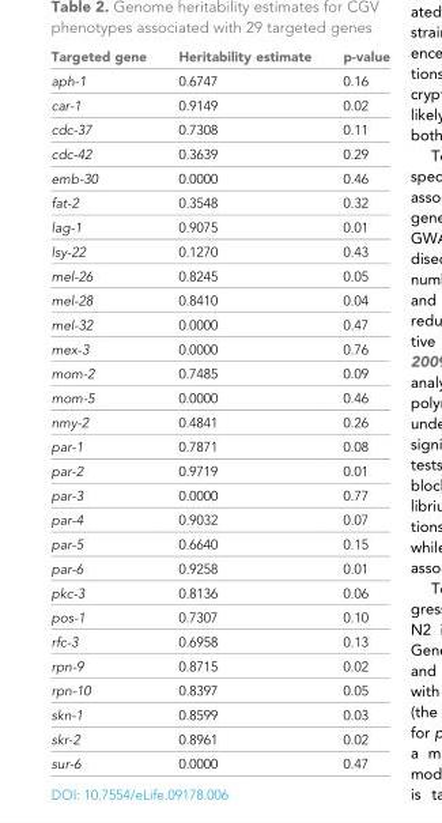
<table><thead><tr><td>Targeted gene</td><td>Heritability estimate</td><td>p-value</td></tr></thead><tbody><tr><td>aph-1</td><td>0.6747</td><td>0.16</td></tr><tr><td>car-1</td><td>0.9149</td><td>0.02</td></tr><tr><td>cdc-37</td><td>0.7308</td><td>0.11</td></tr><tr><td>cdc-42</td><td>0.3639</td><td>0.29</td></tr><tr><td>emb-30</td><td>0.0000</td><td>0.46</td></tr><tr><td>fat-2</td><td>0.3548</td><td>0.32</td></tr><tr><td>lag-1</td><td>0.9075</td><td>0.01</td></tr><tr><td>lsy-22</td><td>0.1270</td><td>0.43</td></tr><tr><td>mel-26</td><td>0.8245</td><td>0.05</td></tr><tr><td>mel-28</td><td>0.8410</td><td>0.04</td></tr><tr><td>mel-32</td><td>0.0000</td><td>0.47</td></tr><tr><td>mex-3</td><td>0.0000</td><td>0.76</td></tr><tr><td>mom-2</td><td>0.7485</td><td>0.09</td></tr><tr><td>mom-5</td><td>0.0000</td><td>0.46</td></tr><tr><td>nmy-2</td><td>0.4841</td><td>0.26</td></tr><tr><td>par-1</td><td>0.7871</td><td>0.08</td></tr><tr><td>par-2</td><td>0.9719</td><td>0.01</td></tr><tr><td>par-3</td><td>0.0000</td><td>0.77</td></tr><tr><td>par-4</td><td>0.9032</td><td>0.07</td></tr><tr><td>par-5</td><td>0.6640</td><td>0.15</td></tr><tr><td>par-6</td><td>0.9258</td><td>0.01</td></tr><tr><td>pkc-3</td><td>0.8136</td><td>0.06</td></tr><tr><td>pos-1</td><td>0.7307</td><td>0.10</td></tr><tr><td>rfc-3</td><td>0.6958</td><td>0.13</td></tr><tr><td>rpn-9</td><td>0.8715</td><td>0.02</td></tr><tr><td>rpn-10</td><td>0.8397</td><td>0.05</td></tr><tr><td>skn-1</td><td>0.8599</td><td>0.03</td></tr><tr><td>skr-2</td><td>0.8961</td><td>0.02</td></tr><tr><td>sur-6</td><td>0.0000</td><td>0.47</td></tr></tbody></table>